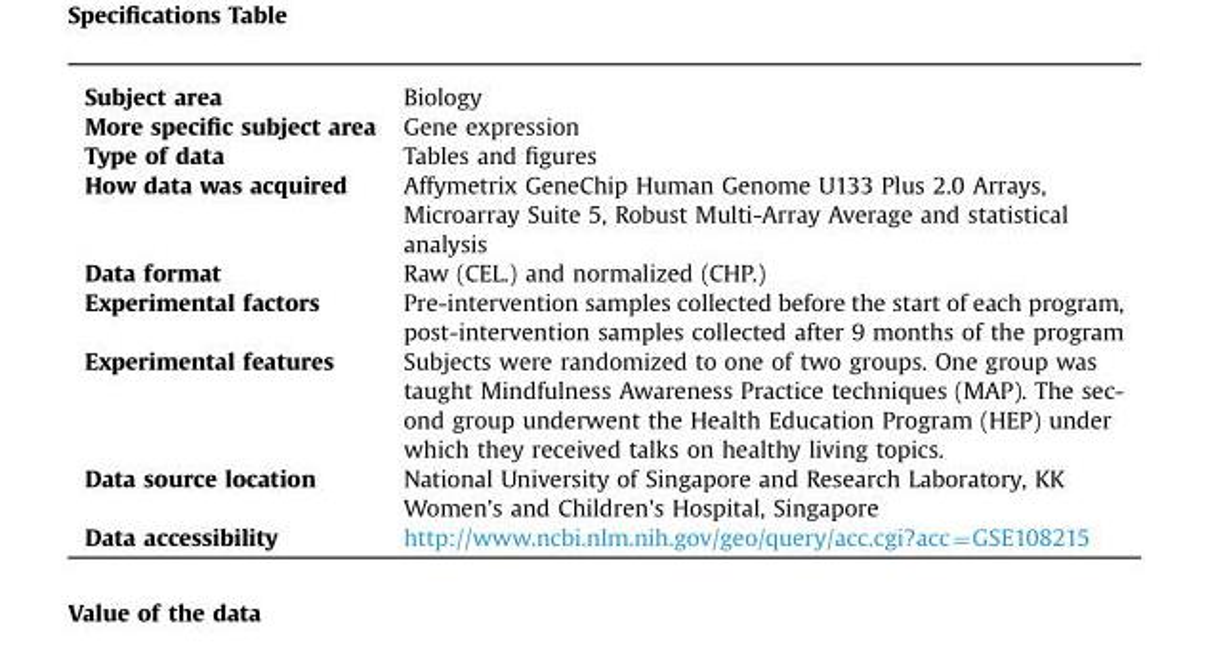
<table><tbody><tr><td>Subject area</td><td>Biology</td></tr><tr><td>More specific subject area</td><td>Gene expression</td></tr><tr><td>Type of data</td><td>Tables and figures</td></tr><tr><td>How data was acquired</td><td>Affymetrix GeneChip Human Genome U133 Plus 2.0 Arrays, Microarray Suite 5, Robust Multi-Array Average and statistical analysis</td></tr><tr><td>Data format</td><td>Raw (CEL.) and normalized (CHP.)</td></tr><tr><td>Experimental factors</td><td>Pre-intervention samples collected before the start of each program, post-intervention samples collected after 9 months of the program</td></tr><tr><td>Experimental features</td><td>Subjects were randomized to one of two groups. One group was taught Mindfulness Awareness Practice techniques (MAP). The sec- ond group underwent the Health Education Program (HEP) under which they received talks on healthy living topics.</td></tr><tr><td>Data source location</td><td>National University of Singapore and Research Laboratory, KK Women&#x27;s and Children&#x27;s Hospital, Singapore</td></tr><tr><td>Data accessibility</td><td>http://www.ncbi.nlm.nih.gov/geo/query/acc.cgi?acc=GSE108215</td></tr></tbody></table>